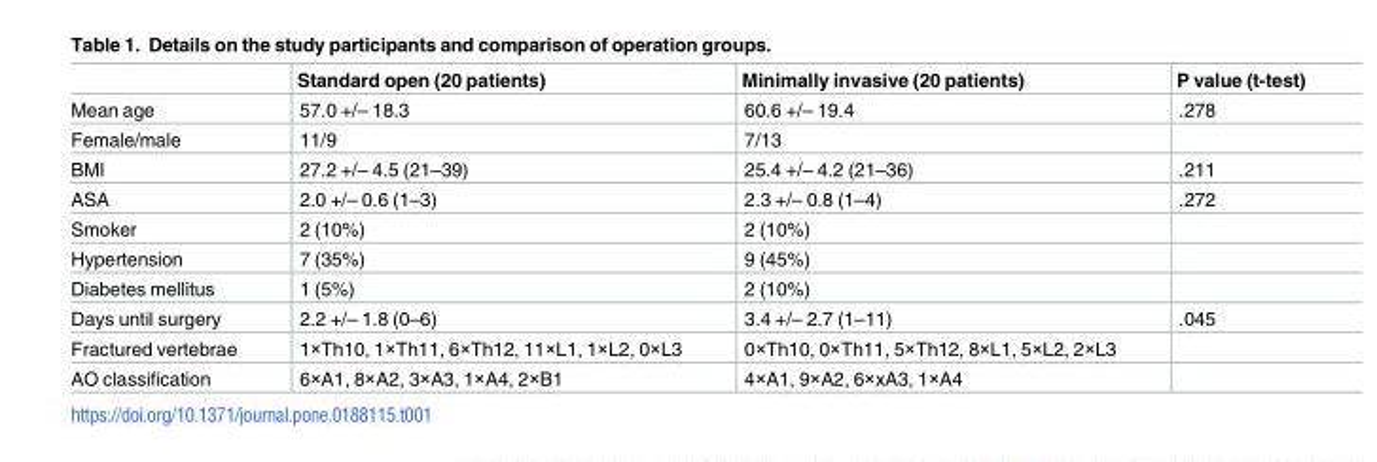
<table><thead><tr><td></td><td>Standard open (20 patients)</td><td>Minimally invasive (20 patients)</td><td>P value (t-test)</td></tr></thead><tbody><tr><td>Mean age</td><td>57.0 +/– 18.3</td><td>60.6 +/– 19.4</td><td>.278</td></tr><tr><td>Female/male</td><td>11/9</td><td>7/13</td><td></td></tr><tr><td>BMI</td><td>27.2 +/– 4.5 (21–39)</td><td>25.4 +/– 4.2 (21–36)</td><td>.211</td></tr><tr><td>ASA</td><td>2.0 +/– 0.6 (1–3)</td><td>2.3 +/– 0.8 (1–4)</td><td>.272</td></tr><tr><td>Smoker</td><td>2 (10%)</td><td>2 (10%)</td><td></td></tr><tr><td>Hypertension</td><td>7 (35%)</td><td>9 (45%)</td><td></td></tr><tr><td>Diabetes mellitus</td><td>1 (5%)</td><td>2 (10%)</td><td></td></tr><tr><td>Days until surgery</td><td>2.2 +/– 1.8 (0–6)</td><td>3.4 +/– 2.7 (1–11)</td><td>.045</td></tr><tr><td>Fractured vertebrae</td><td>1×Th10, 1×Th11, 6×Th12, 11×L1, 1×L2, 0×L3</td><td>0×Th10, 0×Th11, 5×Th12, 8×L1, 5×L2, 2×L3</td><td></td></tr><tr><td>AO classification</td><td>6×A1, 8×A2, 3×A3, 1×A4, 2×B1</td><td>4×A1, 9×A2, 6×xA3, 1×A4</td><td></td></tr></tbody></table>